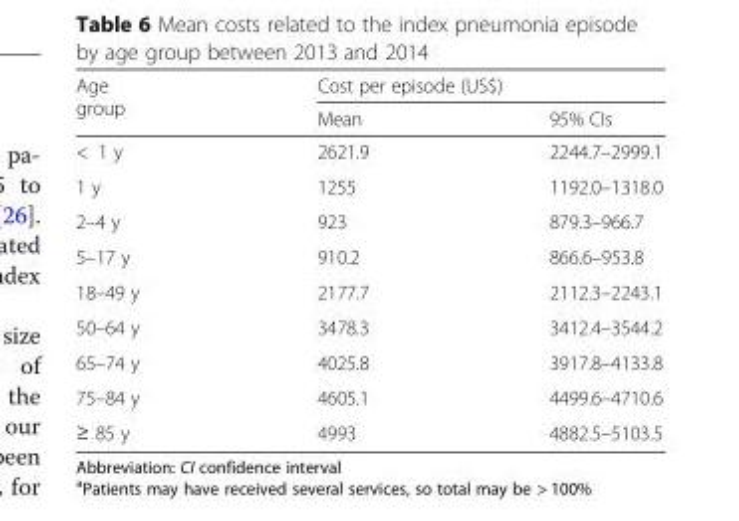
<table><thead><tr><td rowspan="2">Age group</td><td colspan="2">Cost per episode (US$)</td></tr><tr><td>Mean</td><td>95% CIs</td></tr></thead><tbody><tr><td>&lt; 1 y</td><td>2621.9</td><td>2244.7–2999.1</td></tr><tr><td>1 y</td><td>1255</td><td>1192.0–1318.0</td></tr><tr><td>2–4 y</td><td>923</td><td>879.3–966.7</td></tr><tr><td>5–17 y</td><td>910.2</td><td>866.6–953.8</td></tr><tr><td>18–49 y</td><td>2177.7</td><td>2112.3–2243.1</td></tr><tr><td>50–64 y</td><td>3478.3</td><td>3412.4–3544.2</td></tr><tr><td>65–74 y</td><td>4025.8</td><td>3917.8–4133.8</td></tr><tr><td>75–84 y</td><td>4605.1</td><td>4499.6–4710.6</td></tr><tr><td>≥ 85 y</td><td>4993</td><td>4882.5–5103.5</td></tr></tbody></table>